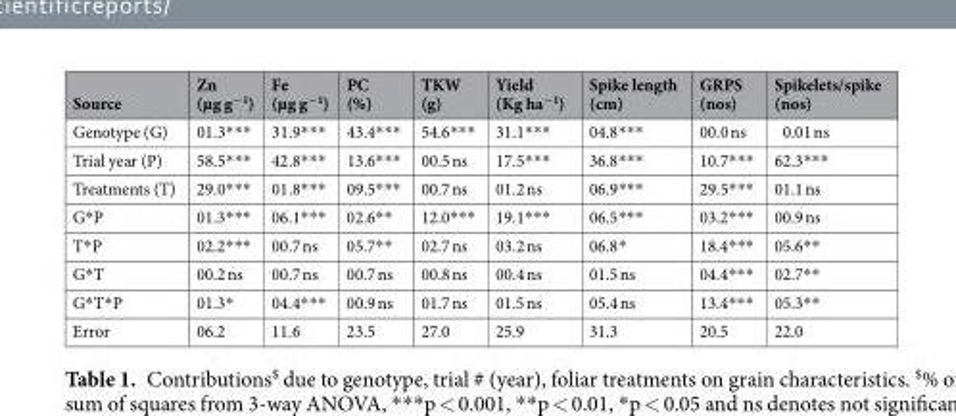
<table><thead><tr><td>Source</td><td>Zn (µg g<sup>−1</sup>)</td><td>Fe (µg g<sup>−1</sup>)</td><td>PC (%)</td><td>TKW (g)</td><td>Yield (Kg ha<sup>−1</sup>)</td><td>Spike length (cm)</td><td>GRPS (nos)</td><td>Spikelets/spike (nos)</td></tr></thead><tbody><tr><td>Genotype (G)</td><td>01.3***</td><td>31.9***</td><td>43.4***</td><td>54.6***</td><td>31.1***</td><td>04.8***</td><td>00.0 ns</td><td>0.01 ns</td></tr><tr><td>Trial year (P)</td><td>58.5***</td><td>42.8***</td><td>13.6***</td><td>00.5 ns</td><td>17.5***</td><td>36.8***</td><td>10.7***</td><td>62.3***</td></tr><tr><td>Treatments (T)</td><td>29.0***</td><td>01.8***</td><td>09.5***</td><td>00.7 ns</td><td>01.2 ns</td><td>06.9***</td><td>29.5***</td><td>01.1 ns</td></tr><tr><td>G*P</td><td>01.3***</td><td>06.1***</td><td>02.6**</td><td>12.0***</td><td>19.1***</td><td>06.5***</td><td>03.2***</td><td>00.9 ns</td></tr><tr><td>T*P</td><td>02.2***</td><td>00.7 ns</td><td>05.7**</td><td>02.7 ns</td><td>03.2 ns</td><td>06.8*</td><td>18.4***</td><td>05.6**</td></tr><tr><td>G*T</td><td>00.2 ns</td><td>00.7 ns</td><td>00.7 ns</td><td>00.8 ns</td><td>00.4 ns</td><td>01.5 ns</td><td>04.4***</td><td>02.7**</td></tr><tr><td>G*T*P</td><td>01.3*</td><td>04.4***</td><td>00.9 ns</td><td>01.7 ns</td><td>01.5 ns</td><td>05.4 ns</td><td>13.4***</td><td>05.3**</td></tr><tr><td>Error</td><td>06.2</td><td>11.6</td><td>23.5</td><td>27.0</td><td>25.9</td><td>31.3</td><td>20.5</td><td>22.0</td></tr></tbody></table>